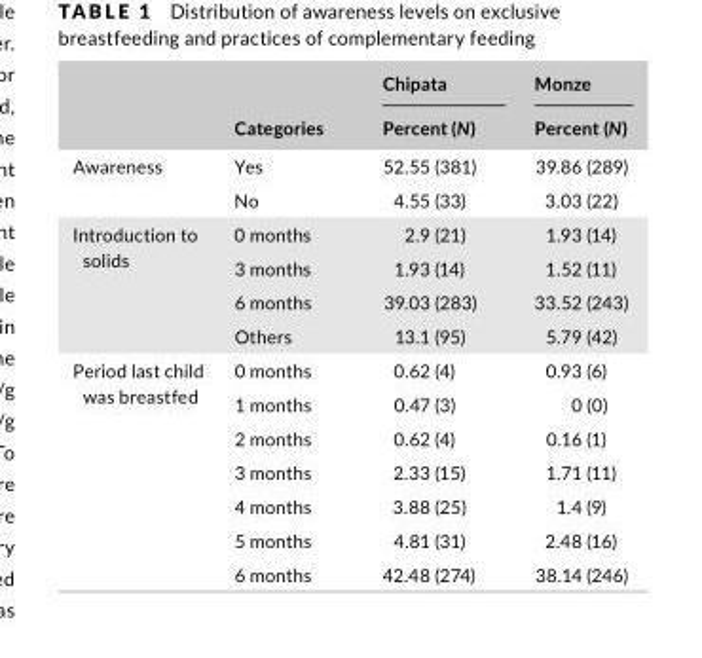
<table><thead><tr><td rowspan="2"></td><td rowspan="2">Categories</td><td rowspan="2">Chipata Percent (N)</td><td rowspan="2">Monze Percent (N)</td></tr><tr></tr></thead><tbody><tr><td rowspan="2">Awareness</td><td>Yes</td><td>52.55 (381)</td><td>39.86 (289)</td></tr><tr><td>No</td><td>4.55 (33)</td><td>3.03 (22)</td></tr><tr><td rowspan="4">Introduction to solids</td><td>0 months</td><td>2.9 (21)</td><td>1.93 (14)</td></tr><tr><td>3 months</td><td>1.93 (14)</td><td>1.52 (11)</td></tr><tr><td>6 months</td><td>39.03 (283)</td><td>33.52 (243)</td></tr><tr><td>Others</td><td>13.1 (95)</td><td>5.79 (42)</td></tr><tr><td rowspan="7">Period last child was breastfed</td><td>0 months</td><td>0.62 (4)</td><td>0.93 (6)</td></tr><tr><td>1 months</td><td>0.47 (3)</td><td>0 (0)</td></tr><tr><td>2 months</td><td>0.62 (4)</td><td>0.16 (1)</td></tr><tr><td>3 months</td><td>2.33 (15)</td><td>1.71 (11)</td></tr><tr><td>4 months</td><td>3.88 (25)</td><td>1.4 (9)</td></tr><tr><td>5 months</td><td>4.81 (31)</td><td>2.48 (16)</td></tr><tr><td>6 months</td><td>42.48 (274)</td><td>38.14 (246)</td></tr></tbody></table>